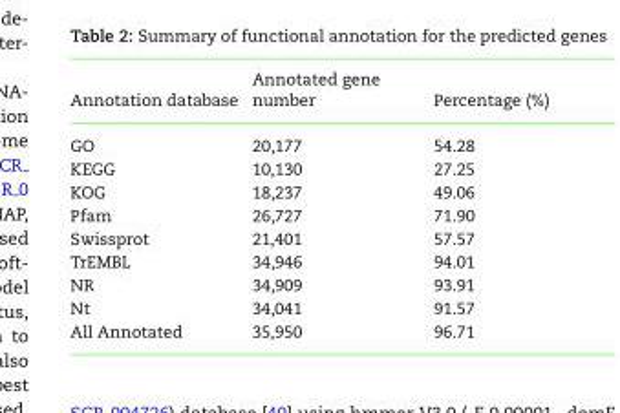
<table><thead><tr><td>Annotation database</td><td>Annotated gene number</td><td>Percentage (%)</td></tr></thead><tbody><tr><td>GO</td><td>20,177</td><td>54.28</td></tr><tr><td>KEGG</td><td>10,130</td><td>27.25</td></tr><tr><td>KOG</td><td>18,237</td><td>49.06</td></tr><tr><td>Pfam</td><td>26,727</td><td>71.90</td></tr><tr><td>Swissprot</td><td>21,401</td><td>57.57</td></tr><tr><td>TrEMBL</td><td>34,946</td><td>94.01</td></tr><tr><td>NR</td><td>34,909</td><td>93.91</td></tr><tr><td>Nt</td><td>34,041</td><td>91.57</td></tr><tr><td>All Annotated</td><td>35,950</td><td>96.71</td></tr></tbody></table>